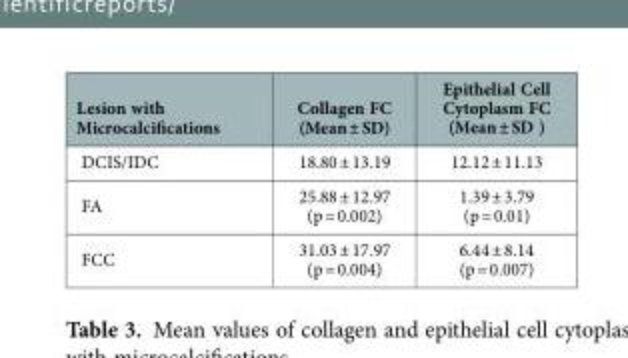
<table><thead><tr><td>Lesion with Microcalcifications</td><td>Collagen FC (Mean ± SD)</td><td>Epithelial Cell Cytoplasm FC (Mean ± SD )</td></tr></thead><tbody><tr><td>DCIS/IDC</td><td>18.80 ± 13.19</td><td>12.12 ± 11.13</td></tr><tr><td>FA</td><td>25.88 ± 12.97 (p = 0.002)</td><td>1.39 ± 3.79 (p = 0.01)</td></tr><tr><td>FCC</td><td>31.03 ± 17.97 (p = 0.004)</td><td>6.44 ± 8.14 (p = 0.007)</td></tr></tbody></table>